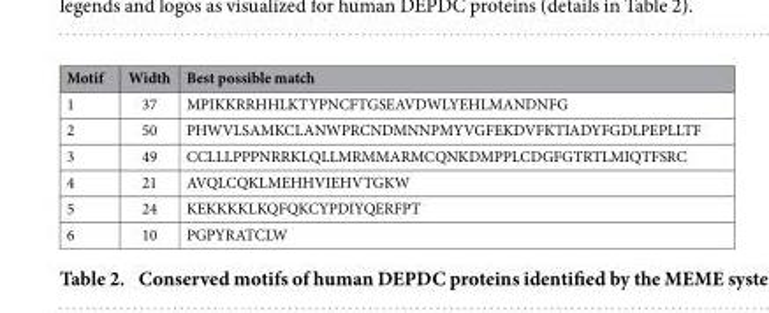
<table><thead><tr><td>Motif</td><td>Width</td><td>Best possible match</td></tr></thead><tbody><tr><td>1</td><td>37</td><td>MPIKKRRHHLKTYPNCFTGSEAVDWLYEHLMANDNFG</td></tr><tr><td>2</td><td>50</td><td>PHWVLSAMKCLANWPRCNDMNNPMYVGFEKDVFKTIADYFGDLPEPLLTF</td></tr><tr><td>3</td><td>49</td><td>CCLLLPPPNRRKLQLLMRMMARMCQNKDMPPLCDGFGTRTLMIQTFSRC</td></tr><tr><td>4</td><td>21</td><td>AVQLCQKLMEHHVIEHVTGKW</td></tr><tr><td>5</td><td>24</td><td>KEKKKKLKQFQKCYPDIYQERFPT</td></tr><tr><td>6</td><td>10</td><td>PGPYRATCLW</td></tr></tbody></table>